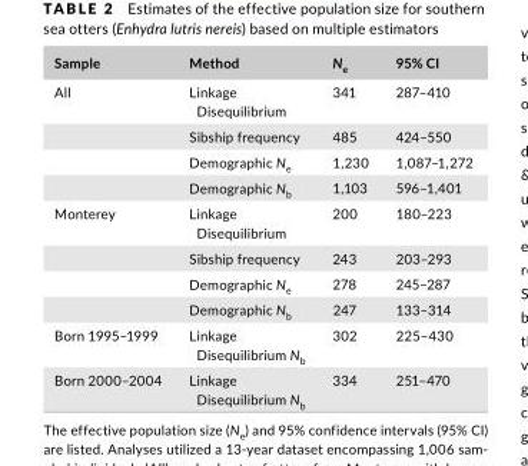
<table><thead><tr><td>Sample</td><td>Method</td><td>N<sub>e</sub></td><td>95% CI</td></tr></thead><tbody><tr><td rowspan="4">All</td><td>Linkage Disequilibrium</td><td>341</td><td>287–410</td></tr><tr><td>Sibship frequency</td><td>485</td><td>424–550</td></tr><tr><td>Demographic N<sub>e</sub></td><td>1,230</td><td>1,087–1,272</td></tr><tr><td>Demographic N<sub>b</sub></td><td>1,103</td><td>596–1,401</td></tr><tr><td rowspan="4">Monterey</td><td>Linkage Disequilibrium</td><td>200</td><td>180–223</td></tr><tr><td>Sibship frequency</td><td>243</td><td>203–293</td></tr><tr><td>Demographic N<sub>e</sub></td><td>278</td><td>245–287</td></tr><tr><td>Demographic N<sub>b</sub></td><td>247</td><td>133–314</td></tr><tr><td>Born 1995–1999</td><td>Linkage Disequilibrium N<sub>b</sub></td><td>302</td><td>225–430</td></tr><tr><td>Born 2000–2004</td><td>Linkage Disequilibrium N<sub>b</sub></td><td>334</td><td>251–470</td></tr></tbody></table>